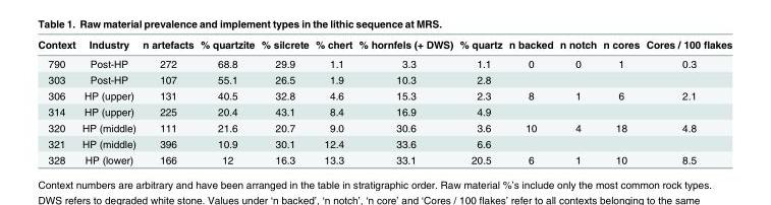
<table><thead><tr><td>Context</td><td>Industry</td><td>n artefacts</td><td>% quartzite</td><td>% silcrete</td><td>% chert</td><td>% hornfels (+ DWS)</td><td>% quartz</td><td>n backed</td><td>n notch</td><td>n cores</td><td>Cores / 100 flakes</td></tr></thead><tbody><tr><td>790</td><td>Post-HP</td><td>272</td><td>68.8</td><td>29.9</td><td>1.1</td><td>3.3</td><td>1.1</td><td>0</td><td>0</td><td>1</td><td>0.3</td></tr><tr><td>303</td><td>Post-HP</td><td>107</td><td>55.1</td><td>26.5</td><td>1.9</td><td>10.3</td><td>2.8</td><td></td><td></td><td></td><td></td></tr><tr><td>306</td><td>HP (upper)</td><td>131</td><td>40.5</td><td>32.8</td><td>4.6</td><td>15.3</td><td>2.3</td><td>8</td><td>1</td><td>6</td><td>2.1</td></tr><tr><td>314</td><td>HP (upper)</td><td>225</td><td>20.4</td><td>43.1</td><td>8.4</td><td>16.9</td><td>4.9</td><td></td><td></td><td></td><td></td></tr><tr><td>320</td><td>HP (middle)</td><td>111</td><td>21.6</td><td>20.7</td><td>9.0</td><td>30.6</td><td>3.6</td><td>10</td><td>4</td><td>18</td><td>4.8</td></tr><tr><td>321</td><td>HP (middle)</td><td>396</td><td>10.9</td><td>30.1</td><td>12.4</td><td>33.6</td><td>6.6</td><td></td><td></td><td></td><td></td></tr><tr><td>328</td><td>HP (lower)</td><td>166</td><td>12</td><td>16.3</td><td>13.3</td><td>33.1</td><td>20.5</td><td>6</td><td>1</td><td>10</td><td>8.5</td></tr></tbody></table>